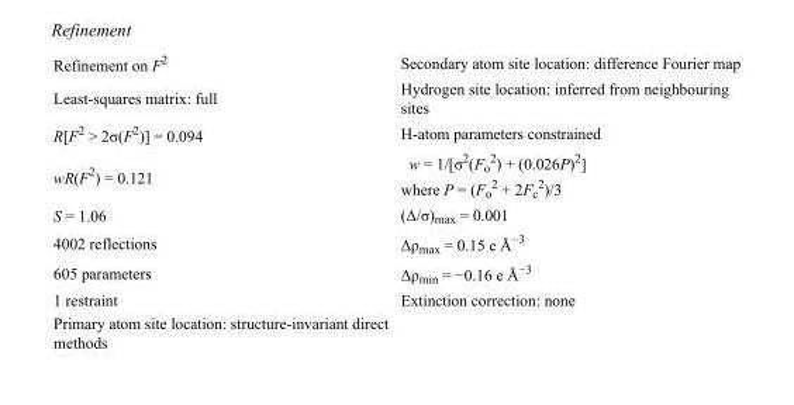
<table><tbody><tr><td>Refinement on F<sup>2</sup></td><td>Secondary atom site location: difference Fourier map</td></tr><tr><td>Least-squares matrix: full</td><td>Hydrogen site location: inferred from neighbouring sites</td></tr><tr><td>R[F<sup>2</sup> &gt; 2σ(F<sup>2</sup>)] = 0.094</td><td>H-atom parameters constrained</td></tr><tr><td>wR(F<sup>2</sup>) = 0.121</td><td>w = 1/[σ<sup>2</sup>(F<sub>o</sub> <sup>2</sup>) + (0.026P)<sup>2</sup>] where P = (F<sub>o</sub> <sup>2</sup> + 2F<sub>c</sub> <sup>2</sup>)/3</td></tr><tr><td>S = 1.06</td><td>(Δ/σ)<sub>max</sub> = 0.001</td></tr><tr><td>4002 reflections</td><td>Δρ<sub>max</sub> = 0.15 e Å<sup>−3</sup></td></tr><tr><td>605 parameters</td><td>Δρ<sub>min</sub> = −0.16 e Å<sup>−3</sup></td></tr><tr><td>1 restraint</td><td>Extinction correction: none</td></tr><tr><td>Primary atom site location: structure-invariant direct methods</td><td></td></tr></tbody></table>